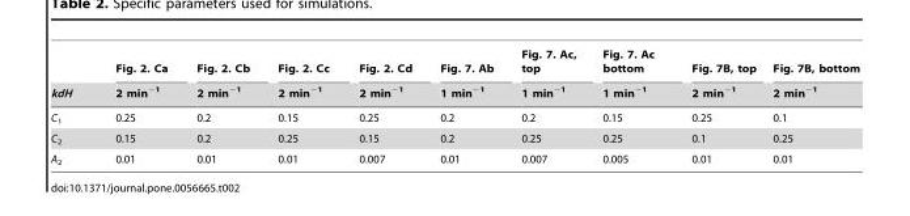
<table><thead><tr><td rowspan="2">kdH</td><td rowspan="2">Fig. 2. Ca 2 min<sup>−1</sup></td><td rowspan="2">Fig. 2. Cb 2 min<sup>−1</sup></td><td rowspan="2">Fig. 2. Cc 2 min<sup>−1</sup></td><td rowspan="2">Fig. 2. Cd 2 min<sup>−1</sup></td><td rowspan="2">Fig. 7. Ab 1 min<sup>−1</sup></td><td rowspan="2">Fig. 7. Ac, top 1 min<sup>−1</sup></td><td rowspan="2">Fig. 7. Ac bottom 1 min<sup>−1</sup></td><td rowspan="2">Fig. 7B, top 2 min<sup>−1</sup></td><td rowspan="2">Fig. 7B, bottom 2 min<sup>−1</sup></td></tr><tr></tr></thead><tbody><tr><td>C<sub>1</sub></td><td>0.25</td><td>0.2</td><td>0.15</td><td>0.25</td><td>0.2</td><td>0.2</td><td>0.15</td><td>0.25</td><td>0.1</td></tr><tr><td>C<sub>2</sub></td><td>0.15</td><td>0.2</td><td>0.25</td><td>0.15</td><td>0.2</td><td>0.25</td><td>0.25</td><td>0.1</td><td>0.25</td></tr><tr><td>A<sub>2</sub></td><td>0.01</td><td>0.01</td><td>0.01</td><td>0.007</td><td>0.01</td><td>0.007</td><td>0.005</td><td>0.01</td><td>0.01</td></tr></tbody></table>